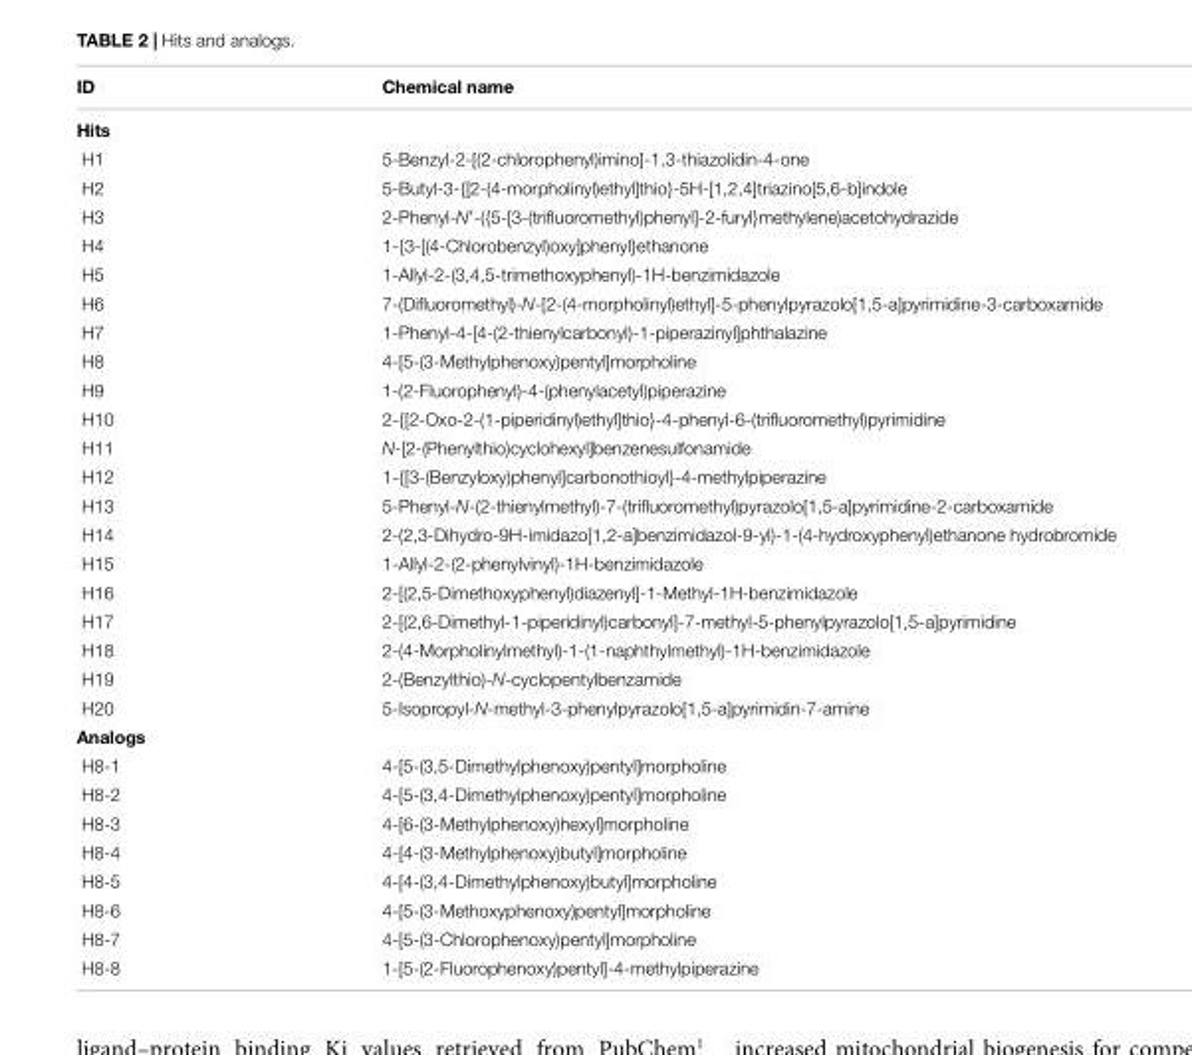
<table><thead><tr><td>ID</td><td>Chemical name</td></tr></thead><tbody><tr><td colspan="2">Hits</td></tr><tr><td>H1</td><td>5-Benzyl-2-[(2-chlorophenyl)imino]-1,3-thiazolidin-4-one</td></tr><tr><td>H2</td><td>5-Butyl-3-{[2-(4-morpholinyl)ethyl]thio}-5H-[1,2,4]triazino[5,6-b]indole</td></tr><tr><td>H3</td><td>2-Phenyl-N′-({5-[3-(trifluoromethyl)phenyl]-2-furyl}methylene)acetohydrazide</td></tr><tr><td>H4</td><td>1-{3-[(4-Chlorobenzyl)oxy]phenyl}ethanone</td></tr><tr><td>H5</td><td>1-Allyl-2-(3,4,5-trimethoxyphenyl)-1H-benzimidazole</td></tr><tr><td>H6</td><td>7-(Difluoromethyl)-N-[2-(4-morpholinyl)ethyl]-5-phenylpyrazolo[1,5-a]pyrimidine-3-carboxamide</td></tr><tr><td>H7</td><td>1-Phenyl-4-[4-(2-thienylcarbonyl)-1-piperazinyl]phthalazine</td></tr><tr><td>H8</td><td>4-[5-(3-Methylphenoxy)pentyl]morpholine</td></tr><tr><td>H9</td><td>1-(2-Fluorophenyl)-4-(phenylacetyl)piperazine</td></tr><tr><td>H10</td><td>2-{[2-Oxo-2-(1-piperidinyl)ethyl]thio}-4-phenyl-6-(trifluoromethyl)pyrimidine</td></tr><tr><td>H11</td><td>N-[2-(Phenylthio)cyclohexyl]benzenesulfonamide</td></tr><tr><td>H12</td><td>1-{[3-(Benzyloxy)phenyl]carbonothioyl}-4-methylpiperazine</td></tr><tr><td>H13</td><td>5-Phenyl-N-(2-thienylmethyl)-7-(trifluoromethyl)pyrazolo[1,5-a]pyrimidine-2-carboxamide</td></tr><tr><td>H14</td><td>2-(2,3-Dihydro-9H-imidazo[1,2-a]benzimidazol-9-yl)-1-(4-hydroxyphenyl)ethanone hydrobromide</td></tr><tr><td>H15</td><td>1-Allyl-2-(2-phenylvinyl)-1H-benzimidazole</td></tr><tr><td>H16</td><td>2-[(2,5-Dimethoxyphenyl)diazenyl]-1-Methyl-1H-benzimidazole</td></tr><tr><td>H17</td><td>2-[(2,6-Dimethyl-1-piperidinyl)carbonyl]-7-methyl-5-phenylpyrazolo[1,5-a]pyrimidine</td></tr><tr><td>H18</td><td>2-(4-Morpholinylmethyl)-1-(1-naphthylmethyl)-1H-benzimidazole</td></tr><tr><td>H19</td><td>2-(Benzylthio)-N-cyclopentylbenzamide</td></tr><tr><td>H20</td><td>5-Isopropyl-N-methyl-3-phenylpyrazolo[1,5-a]pyrimidin-7-amine</td></tr><tr><td colspan="2">Analogs</td></tr><tr><td>H8-1</td><td>4-[5-(3,5-Dimethylphenoxy)pentyl]morpholine</td></tr><tr><td>H8-2</td><td>4-[5-(3,4-Dimethylphenoxy)pentyl]morpholine</td></tr><tr><td>H8-3</td><td>4-[6-(3-Methylphenoxy)hexyl]morpholine</td></tr><tr><td>H8-4</td><td>4-[4-(3-Methylphenoxy)butyl]morpholine</td></tr><tr><td>H8-5</td><td>4-[4-(3,4-Dimethylphenoxy)butyl]morpholine</td></tr><tr><td>H8-6</td><td>4-[5-(3-Methoxyphenoxy)pentyl]morpholine</td></tr><tr><td>H8-7</td><td>4-[5-(3-Chlorophenoxy)pentyl]morpholine</td></tr><tr><td>H8-8</td><td>1-[5-(2-Fluorophenoxy)pentyl]-4-methylpiperazine</td></tr></tbody></table>